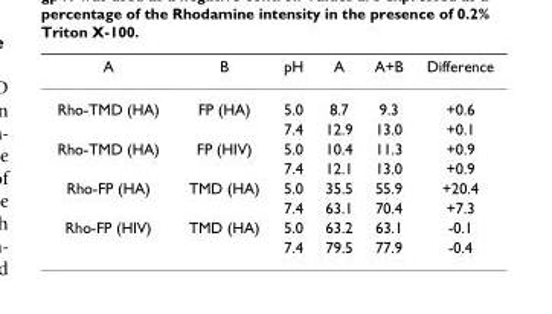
<table><thead><tr><td>A</td><td>B</td><td>pH</td><td>A</td><td>A+B</td><td>Difference</td></tr></thead><tbody><tr><td rowspan="2">Rho-TMD (HA)</td><td>FP (HA)</td><td>5.0</td><td>8.7</td><td>9.3</td><td>+0.6</td></tr><tr><td></td><td>7.4</td><td>12.9</td><td>13.0</td><td>+0.1</td></tr><tr><td rowspan="2">Rho-TMD (HA)</td><td>FP (HIV)</td><td>5.0</td><td>10.4</td><td>11.3</td><td>+0.9</td></tr><tr><td></td><td>7.4</td><td>12.1</td><td>13.0</td><td>+0.9</td></tr><tr><td rowspan="2">Rho-FP (HA)</td><td>TMD (HA)</td><td>5.0</td><td>35.5</td><td>55.9</td><td>+20.4</td></tr><tr><td></td><td>7.4</td><td>63.1</td><td>70.4</td><td>+7.3</td></tr><tr><td rowspan="2">Rho-FP (HIV)</td><td>TMD (HA)</td><td>5.0</td><td>63.2</td><td>63.1</td><td>-0.1</td></tr><tr><td></td><td>7.4</td><td>79.5</td><td>77.9</td><td>-0.4</td></tr></tbody></table>